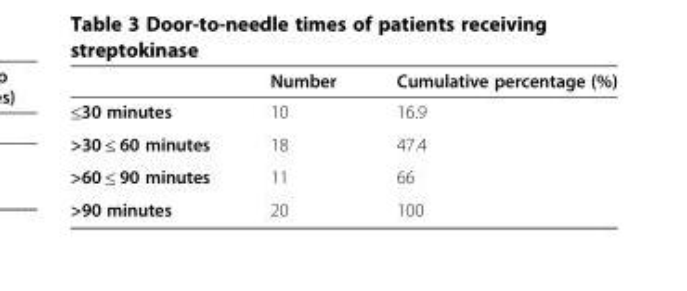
<table><thead><tr><td></td><td>Number</td><td>Cumulative percentage (%)</td></tr></thead><tbody><tr><td>≤30 minutes</td><td>10</td><td>16.9</td></tr><tr><td>&gt;30 ≤ 60 minutes</td><td>18</td><td>47.4</td></tr><tr><td>&gt;60 ≤ 90 minutes</td><td>11</td><td>66</td></tr><tr><td>&gt;90 minutes</td><td>20</td><td>100</td></tr></tbody></table>